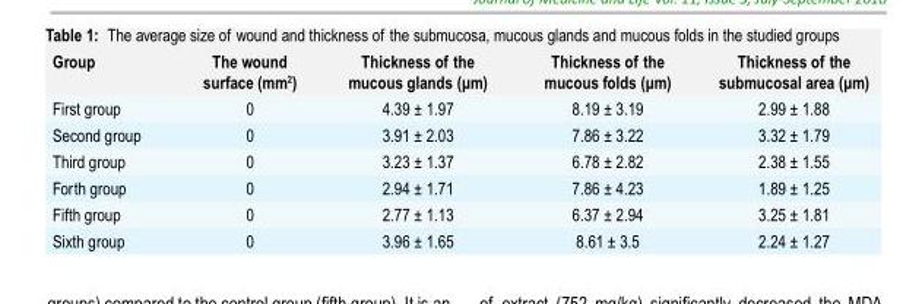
<table><thead><tr><td>Group</td><td>The wound surface (mm<sup>2</sup>)</td><td>Thickness of the mucous glands (µm)</td><td>Thickness of the mucous folds (µm)</td><td>Thickness of the submucosal area (µm)</td></tr></thead><tbody><tr><td>First group</td><td>0</td><td>4.39 ± 1.97</td><td>8.19 ± 3.19</td><td>2.99 ± 1.88</td></tr><tr><td>Second group</td><td>0</td><td>3.91 ± 2.03</td><td>7.86 ± 3.22</td><td>3.32 ± 1.79</td></tr><tr><td>Third group</td><td>0</td><td>3.23 ± 1.37</td><td>6.78 ± 2.82</td><td>2.38 ± 1.55</td></tr><tr><td>Forth group</td><td>0</td><td>2.94 ± 1.71</td><td>7.86 ± 4.23</td><td>1.89 ± 1.25</td></tr><tr><td>Fifth group</td><td>0</td><td>2.77 ± 1.13</td><td>6.37 ± 2.94</td><td>3.25 ± 1.81</td></tr><tr><td>Sixth group</td><td>0</td><td>3.96 ± 1.65</td><td>8.61 ± 3.5</td><td>2.24 ± 1.27</td></tr></tbody></table>